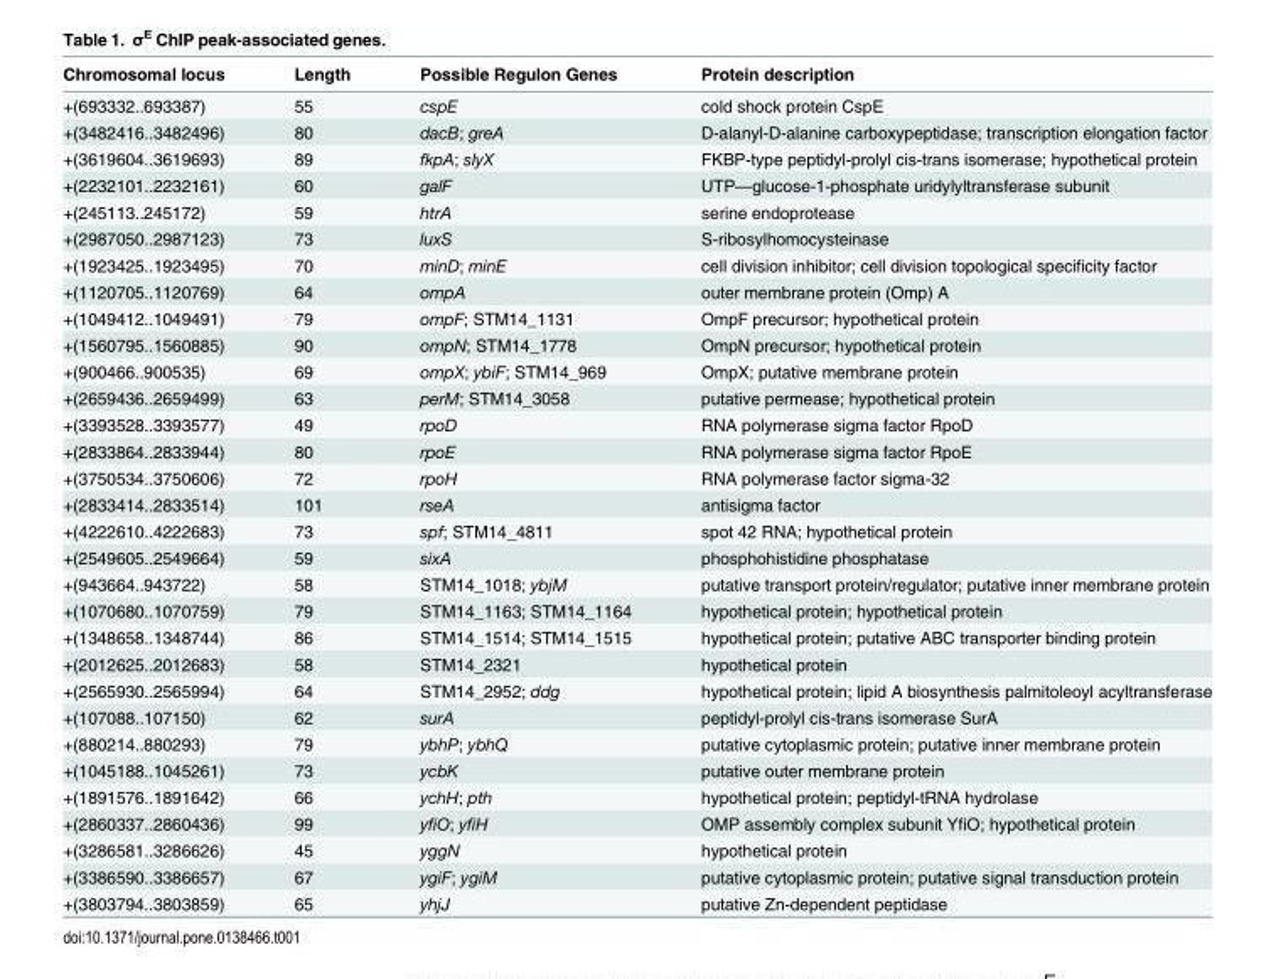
<table><thead><tr><td>Chromosomal locus</td><td>Length</td><td>Possible Regulon Genes</td><td>Protein description</td></tr></thead><tbody><tr><td>+(693332..693387)</td><td>55</td><td>cspE</td><td>cold shock protein CspE</td></tr><tr><td>+(3482416..3482496)</td><td>80</td><td>dacB; greA</td><td>D-alanyl-D-alanine carboxypeptidase; transcription elongation factor</td></tr><tr><td>+(3619604..3619693)</td><td>89</td><td>fkpA; slyX</td><td>FKBP-type peptidyl-prolyl cis-trans isomerase; hypothetical protein</td></tr><tr><td>+(2232101..2232161)</td><td>60</td><td>galF</td><td>UTP—glucose-1-phosphate uridylyltransferase subunit</td></tr><tr><td>+(245113..245172)</td><td>59</td><td>htrA</td><td>serine endoprotease</td></tr><tr><td>+(2987050..2987123)</td><td>73</td><td>luxS</td><td>S-ribosylhomocysteinase</td></tr><tr><td>+(1923425..1923495)</td><td>70</td><td>minD; minE</td><td>cell division inhibitor; cell division topological specificity factor</td></tr><tr><td>+(1120705..1120769)</td><td>64</td><td>ompA</td><td>outer membrane protein (Omp) A</td></tr><tr><td>+(1049412..1049491)</td><td>79</td><td>ompF; STM14_1131</td><td>OmpF precursor; hypothetical protein</td></tr><tr><td>+(1560795..1560885)</td><td>90</td><td>ompN; STM14_1778</td><td>OmpN precursor; hypothetical protein</td></tr><tr><td>+(900466..900535)</td><td>69</td><td>ompX; ybiF; STM14_969</td><td>OmpX; putative membrane protein</td></tr><tr><td>+(2659436..2659499)</td><td>63</td><td>perM; STM14_3058</td><td>putative permease; hypothetical protein</td></tr><tr><td>+(3393528..3393577)</td><td>49</td><td>rpoD</td><td>RNA polymerase sigma factor RpoD</td></tr><tr><td>+(2833864..2833944)</td><td>80</td><td>rpoE</td><td>RNA polymerase sigma factor RpoE</td></tr><tr><td>+(3750534..3750606)</td><td>72</td><td>rpoH</td><td>RNA polymerase factor sigma-32</td></tr><tr><td>+(2833414..2833514)</td><td>101</td><td>rseA</td><td>antisigma factor</td></tr><tr><td>+(4222610..4222683)</td><td>73</td><td>spf; STM14_4811</td><td>spot 42 RNA; hypothetical protein</td></tr><tr><td>+(2549605..2549664)</td><td>59</td><td>sixA</td><td>phosphohistidine phosphatase</td></tr><tr><td>+(943664..943722)</td><td>58</td><td>STM14_1018; ybjM</td><td>putative transport protein/regulator; putative inner membrane protein</td></tr><tr><td>+(1070680..1070759)</td><td>79</td><td>STM14_1163; STM14_1164</td><td>hypothetical protein; hypothetical protein</td></tr><tr><td>+(1348658..1348744)</td><td>86</td><td>STM14_1514; STM14_1515</td><td>hypothetical protein; putative ABC transporter binding protein</td></tr><tr><td>+(2012625..2012683)</td><td>58</td><td>STM14_2321</td><td>hypothetical protein</td></tr><tr><td>+(2565930..2565994)</td><td>64</td><td>STM14_2952; ddg</td><td>hypothetical protein; lipid A biosynthesis palmitoleoyl acyltransferase</td></tr><tr><td>+(107088..107150)</td><td>62</td><td>surA</td><td>peptidyl-prolyl cis-trans isomerase SurA</td></tr><tr><td>+(880214..880293)</td><td>79</td><td>ybhP; ybhQ</td><td>putative cytoplasmic protein; putative inner membrane protein</td></tr><tr><td>+(1045188..1045261)</td><td>73</td><td>ycbK</td><td>putative outer membrane protein</td></tr><tr><td>+(1891576..1891642)</td><td>66</td><td>ychH; pth</td><td>hypothetical protein; peptidyl-tRNA hydrolase</td></tr><tr><td>+(2860337..2860436)</td><td>99</td><td>yfiO; yfiH</td><td>OMP assembly complex subunit YfiO; hypothetical protein</td></tr><tr><td>+(3286581..3286626)</td><td>45</td><td>yggN</td><td>hypothetical protein</td></tr><tr><td>+(3386590..3386657)</td><td>67</td><td>ygiF; ygiM</td><td>putative cytoplasmic protein; putative signal transduction protein</td></tr><tr><td>+(3803794..3803859)</td><td>65</td><td>yhjJ</td><td>putative Zn-dependent peptidase</td></tr></tbody></table>